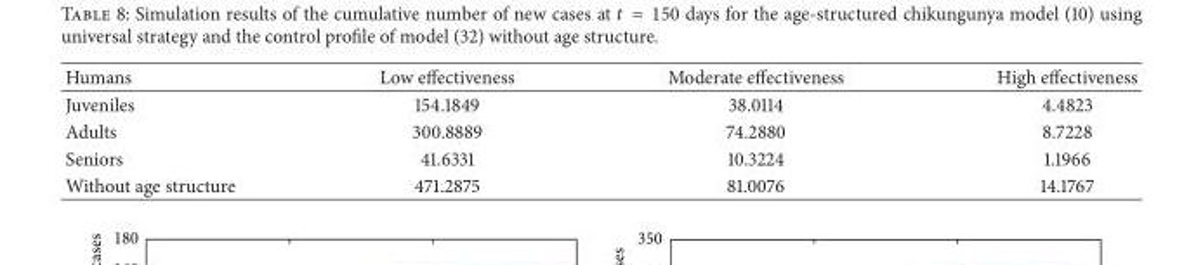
<table><thead><tr><td>Humans</td><td>Low effectiveness</td><td>Moderate effectiveness</td><td>High effectiveness</td></tr></thead><tbody><tr><td>Juveniles</td><td>154.1849</td><td>38.0114</td><td>4.4823</td></tr><tr><td>Adults</td><td>300.8889</td><td>74.2880</td><td>8.7228</td></tr><tr><td>Seniors</td><td>41.6331</td><td>10.3224</td><td>1.1966</td></tr><tr><td>Without age structure</td><td>471.2875</td><td>81.0076</td><td>14.1767</td></tr></tbody></table>